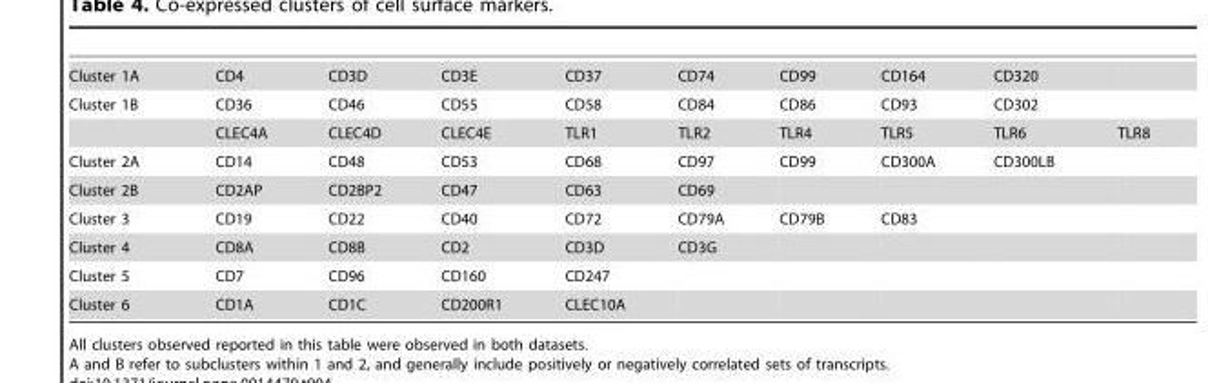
<table><tbody><tr><td>Cluster 1A</td><td>CD4</td><td>CD3D</td><td>CD3E</td><td>CD37</td><td>CD74</td><td>CD99</td><td>CD164</td><td>CD320</td><td></td></tr><tr><td rowspan="2">Cluster 1B</td><td>CD36</td><td>CD46</td><td>CD55</td><td>CD58</td><td>CD84</td><td>CD86</td><td>CD93</td><td>CD302</td><td></td></tr><tr><td>CLEC4A</td><td>CLEC4D</td><td>CLEC4E</td><td>TLR1</td><td>TLR2</td><td>TLR4</td><td>TLR5</td><td>TLR6</td><td>TLR8</td></tr><tr><td>Cluster 2A</td><td>CD14</td><td>CD48</td><td>CD53</td><td>CD68</td><td>CD97</td><td>CD99</td><td>CD300A</td><td>CD300LB</td><td></td></tr><tr><td>Cluster 2B</td><td>CD2AP</td><td>CD2BP2</td><td>CD47</td><td>CD63</td><td>CD69</td><td></td><td></td><td></td><td></td></tr><tr><td>Cluster 3</td><td>CD19</td><td>CD22</td><td>CD40</td><td>CD72</td><td>CD79A</td><td>CD79B</td><td>CD83</td><td></td><td></td></tr><tr><td>Cluster 4</td><td>CD8A</td><td>CD8B</td><td>CD2</td><td>CD3D</td><td>CD3G</td><td></td><td></td><td></td><td></td></tr><tr><td>Cluster 5</td><td>CD7</td><td>CD96</td><td>CD160</td><td>CD247</td><td></td><td></td><td></td><td></td><td></td></tr><tr><td>Cluster 6</td><td>CD1A</td><td>CD1C</td><td>CD200R1</td><td>CLEC10A</td><td></td><td></td><td></td><td></td><td></td></tr></tbody></table>